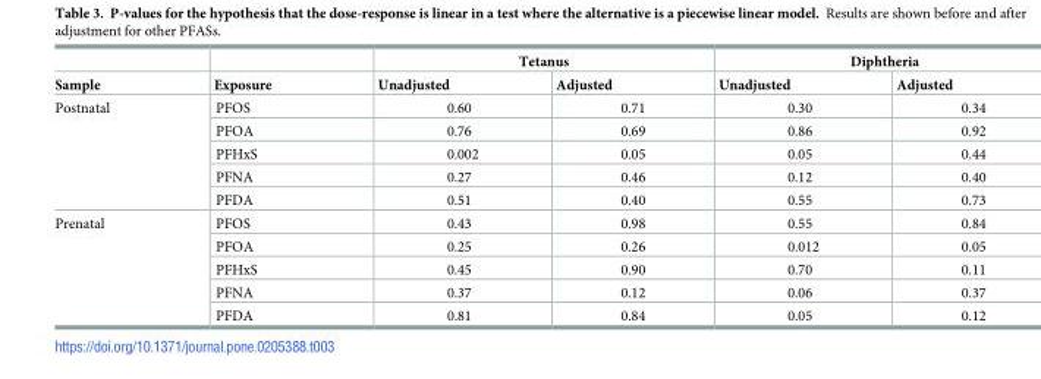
<table><thead><tr><td rowspan="2">Sample</td><td rowspan="2">Exposure</td><td colspan="2">Tetanus</td><td colspan="2">Diphtheria</td></tr><tr><td>Unadjusted</td><td>Adjusted</td><td>Unadjusted</td><td>Adjusted</td></tr></thead><tbody><tr><td rowspan="5">Postnatal</td><td>PFOS</td><td>0.60</td><td>0.71</td><td>0.30</td><td>0.34</td></tr><tr><td>PFOA</td><td>0.76</td><td>0.69</td><td>0.86</td><td>0.92</td></tr><tr><td>PFHxS</td><td>0.002</td><td>0.05</td><td>0.05</td><td>0.44</td></tr><tr><td>PFNA</td><td>0.27</td><td>0.46</td><td>0.12</td><td>0.40</td></tr><tr><td>PFDA</td><td>0.51</td><td>0.40</td><td>0.55</td><td>0.73</td></tr><tr><td rowspan="5">Prenatal</td><td>PFOS</td><td>0.43</td><td>0.98</td><td>0.55</td><td>0.84</td></tr><tr><td>PFOA</td><td>0.25</td><td>0.26</td><td>0.012</td><td>0.05</td></tr><tr><td>PFHxS</td><td>0.45</td><td>0.90</td><td>0.70</td><td>0.11</td></tr><tr><td>PFNA</td><td>0.37</td><td>0.12</td><td>0.06</td><td>0.37</td></tr><tr><td>PFDA</td><td>0.81</td><td>0.84</td><td>0.05</td><td>0.12</td></tr></tbody></table>